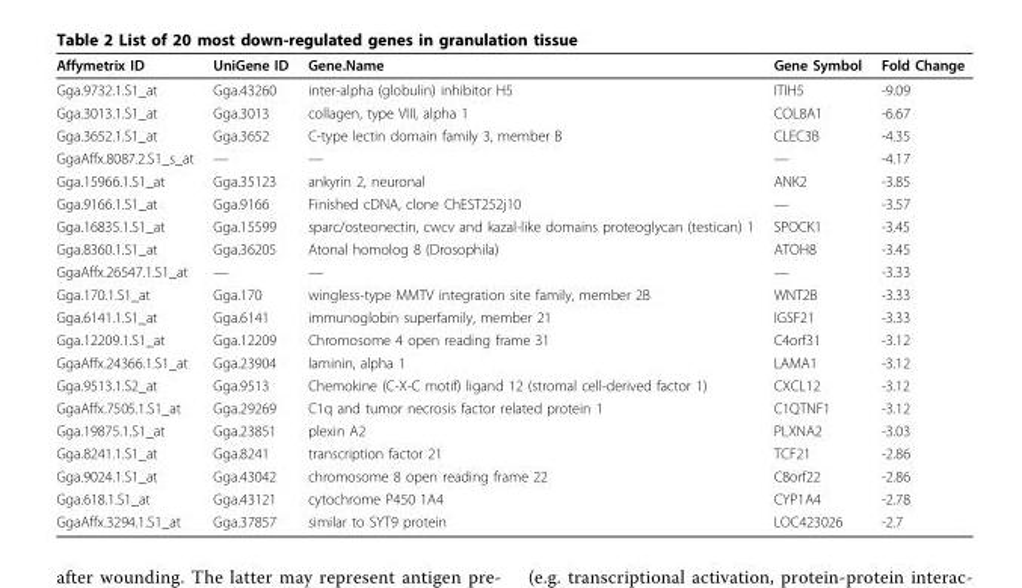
<table><thead><tr><td>Affymetrix ID</td><td>UniGene ID</td><td>Gene.Name</td><td>Gene Symbol</td><td>Fold Change</td></tr></thead><tbody><tr><td>Gga.9732.1.S1_at</td><td>Gga.43260</td><td>inter-alpha (globulin) inhibitor H5</td><td>ITIH5</td><td>-9.09</td></tr><tr><td>Gga.3013.1.S1_at</td><td>Gga.3013</td><td>collagen, type VIII, alpha 1</td><td>COL8A1</td><td>-6.67</td></tr><tr><td>Gga.3652.1.S1_at</td><td>Gga.3652</td><td>C-type lectin domain family 3, member B</td><td>CLEC3B</td><td>-4.35</td></tr><tr><td>GgaAffx.8087.2.S1_s_at</td><td>—</td><td>—</td><td>—</td><td>-4.17</td></tr><tr><td>Gga.15966.1.S1_at</td><td>Gga.35123</td><td>ankyrin 2, neuronal</td><td>ANK2</td><td>-3.85</td></tr><tr><td>Gga.9166.1.S1_at</td><td>Gga.9166</td><td>Finished cDNA, clone ChEST252j10</td><td>—</td><td>-3.57</td></tr><tr><td>Gga.16835.1.S1_at</td><td>Gga.15599</td><td>sparc/osteonectin, cwcv and kazal-like domains proteoglycan (testican) 1</td><td>SPOCK1</td><td>-3.45</td></tr><tr><td>Gga.8360.1.S1_at</td><td>Gga.36205</td><td>Atonal homolog 8 (Drosophila)</td><td>ATOH8</td><td>-3.45</td></tr><tr><td>GgaAffx.26547.1.S1_at</td><td>—</td><td>—</td><td>—</td><td>-3.33</td></tr><tr><td>Gga.170.1.S1_at</td><td>Gga.170</td><td>wingless-type MMTV integration site family, member 2B</td><td>WNT2B</td><td>-3.33</td></tr><tr><td>Gga.6141.1.S1_at</td><td>Gga.6141</td><td>immunoglobin superfamily, member 21</td><td>IGSF21</td><td>-3.33</td></tr><tr><td>Gga.12209.1.S1_at</td><td>Gga.12209</td><td>Chromosome 4 open reading frame 31</td><td>C4orf31</td><td>-3.12</td></tr><tr><td>GgaAffx.24366.1.S1_at</td><td>Gga.23904</td><td>laminin, alpha 1</td><td>LAMA1</td><td>-3.12</td></tr><tr><td>Gga.9513.1.S2_at</td><td>Gga.9513</td><td>Chemokine (C-X-C motif) ligand 12 (stromal cell-derived factor 1)</td><td>CXCL12</td><td>-3.12</td></tr><tr><td>GgaAffx.7505.1.S1_at</td><td>Gga.29269</td><td>C1q and tumor necrosis factor related protein 1</td><td>C1QTNF1</td><td>-3.12</td></tr><tr><td>Gga.19875.1.S1_at</td><td>Gga.23851</td><td>plexin A2</td><td>PLXNA2</td><td>-3.03</td></tr><tr><td>Gga.8241.1.S1_at</td><td>Gga.8241</td><td>transcription factor 21</td><td>TCF21</td><td>-2.86</td></tr><tr><td>Gga.9024.1.S1_at</td><td>Gga.43042</td><td>chromosome 8 open reading frame 22</td><td>C8orf22</td><td>-2.86</td></tr><tr><td>Gga.618.1.S1_at</td><td>Gga.43121</td><td>cytochrome P450 1A4</td><td>CYP1A4</td><td>-2.78</td></tr><tr><td>GgaAffx.3294.1.S1_at</td><td>Gga.37857</td><td>similar to SYT9 protein</td><td>LOC423026</td><td>-2.7</td></tr></tbody></table>